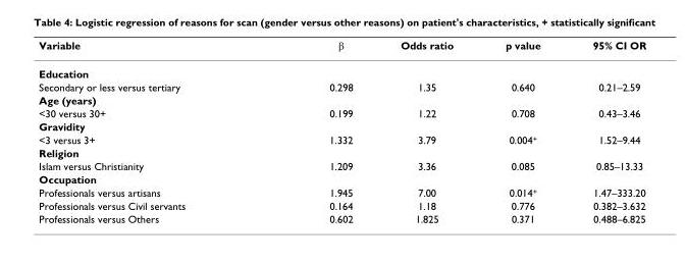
<table><thead><tr><td>Variable</td><td>β</td><td>Odds ratio</td><td>p value</td><td>95% CI OR</td></tr></thead><tbody><tr><td colspan="5">Education</td></tr><tr><td>Secondary or less versus tertiary</td><td>0.298</td><td>1.35</td><td>0.640</td><td>0.21–2.59</td></tr><tr><td colspan="5">Age (years)</td></tr><tr><td>&lt;30 versus 30+</td><td>0.199</td><td>1.22</td><td>0.708</td><td>0.43–3.46</td></tr><tr><td colspan="5">Gravidity</td></tr><tr><td>&lt;3 versus 3+</td><td>1.332</td><td>3.79</td><td>0.004<sup>+</sup></td><td>1.52–9.44</td></tr><tr><td colspan="5">Religion</td></tr><tr><td>Islam versus Christianity</td><td>1.209</td><td>3.36</td><td>0.085</td><td>0.85–13.33</td></tr><tr><td colspan="5">Occupation</td></tr><tr><td>Professionals versus artisans</td><td>1.945</td><td>7.00</td><td>0.014<sup>+</sup></td><td>1.47–333.20</td></tr><tr><td>Professionals versus Civil servants</td><td>0.164</td><td>1.18</td><td>0.776</td><td>0.382–3.632</td></tr><tr><td>Professionals versus Others</td><td>0.602</td><td>1.825</td><td>0.371</td><td>0.488–6.825</td></tr></tbody></table>